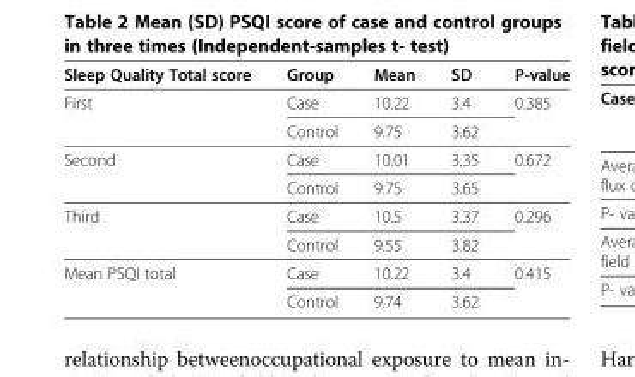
<table><thead><tr><td>Sleep Quality Total score</td><td>Group</td><td>Mean</td><td>SD</td><td>P-value</td></tr></thead><tbody><tr><td rowspan="2">First</td><td>Case</td><td>10.22</td><td>3.4</td><td>0.385</td></tr><tr><td>Control</td><td>9.75</td><td>3.62</td><td></td></tr><tr><td rowspan="2">Second</td><td>Case</td><td>10.01</td><td>3.35</td><td>0.672</td></tr><tr><td>Control</td><td>9.75</td><td>3.65</td><td></td></tr><tr><td rowspan="2">Third</td><td>Case</td><td>10.5</td><td>3.37</td><td>0.296</td></tr><tr><td>Control</td><td>9.55</td><td>3.82</td><td></td></tr><tr><td rowspan="2">Mean PSQI total</td><td>Case</td><td>10.22</td><td>3.4</td><td>0.415</td></tr><tr><td>Control</td><td>9.74</td><td>3.62</td><td></td></tr></tbody></table>